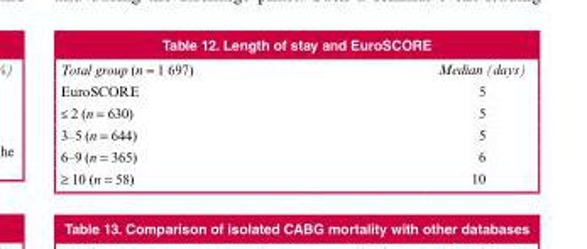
<table><thead><tr><td>Total group (n = 1 697)</td><td>Median (days)</td></tr></thead><tbody><tr><td>EuroSCORE</td><td>5</td></tr><tr><td>≤ 2 (n = 630)</td><td>5</td></tr><tr><td>3–5 (n = 644)</td><td>5</td></tr><tr><td>6–9 (n = 365)</td><td>6</td></tr><tr><td>≥ 10 (n = 58)</td><td>10</td></tr></tbody></table>